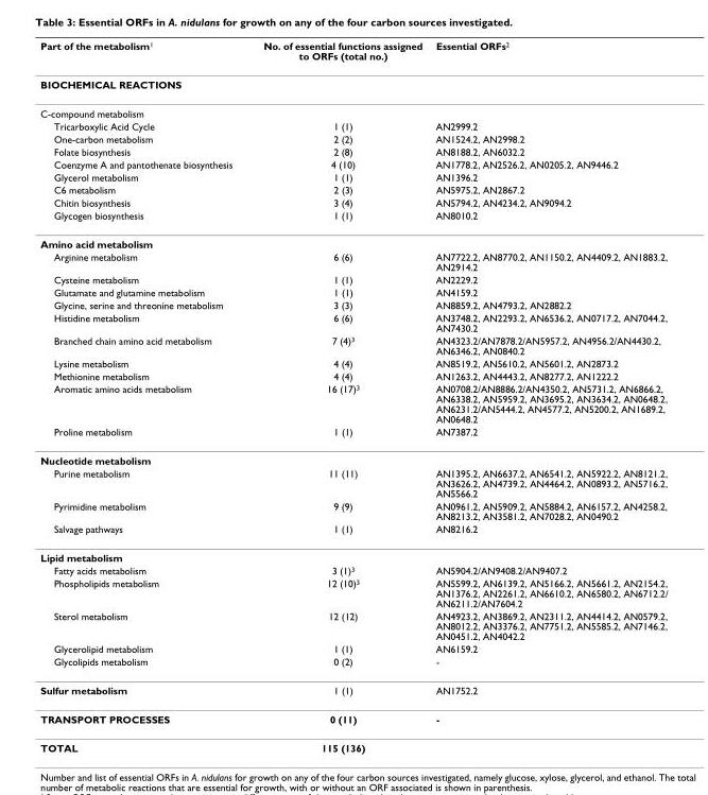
<table><thead><tr><td>Part of the metabolism<sup>1</sup></td><td>No. of essential functions assigned to ORFs (total no.)</td><td>Essential ORFs<sup>2</sup></td></tr></thead><tbody><tr><td colspan="3">BIOCHEMICAL REACTIONS</td></tr><tr><td colspan="3">C-compound metabolism</td></tr><tr><td>Tricarboxylic Acid Cycle</td><td>1 (1)</td><td>AN2999.2</td></tr><tr><td>One-carbon metabolism</td><td>2 (2)</td><td>AN1524.2, AN2998.2</td></tr><tr><td>Folate biosynthesis</td><td>2 (8)</td><td>AN8188.2, AN6032.2</td></tr><tr><td>Coenzyme A and pantothenate biosynthesis</td><td>4 (10)</td><td>AN1778.2, AN2526.2, AN0205.2, AN9446.2</td></tr><tr><td>Glycerol metabolism</td><td>1 (1)</td><td>AN1396.2</td></tr><tr><td>C6 metabolism</td><td>2 (3)</td><td>AN5975.2, AN2867.2</td></tr><tr><td>Chitin biosynthesis</td><td>3 (4)</td><td>AN5794.2, AN4234.2, AN9094.2</td></tr><tr><td>Glycogen biosynthesis</td><td>1 (1)</td><td>AN8010.2</td></tr><tr><td colspan="3">Amino acid metabolism</td></tr><tr><td>Arginine metabolism</td><td>6 (6)</td><td>AN7722.2, AN8770.2, AN1150.2, AN4409.2, AN1883.2, AN2914.2</td></tr><tr><td>Cysteine metabolism</td><td>1 (1)</td><td>AN2229.2</td></tr><tr><td>Glutamate and glutamine metabolism</td><td>1 (1)</td><td>AN4159.2</td></tr><tr><td>Glycine, serine and threonine metabolism</td><td>3 (3)</td><td>AN8859.2, AN4793.2, AN2882.2</td></tr><tr><td>Histidine metabolism</td><td>6 (6)</td><td>AN3748.2, AN2293.2, AN6536.2, AN0717.2, AN7044.2, AN7430.2</td></tr><tr><td>Branched chain amino acid metabolism</td><td>7 (4)<sup>3</sup></td><td>AN4323.2/AN7878.2/AN5957.2, AN4956.2/AN4430.2, AN6346.2, AN0840.2</td></tr><tr><td>Lysine metabolism</td><td>4 (4)</td><td>AN8519.2, AN5610.2, AN5601.2, AN2873.2</td></tr><tr><td>Methionine metabolism</td><td>4 (4)</td><td>AN1263.2, AN4443.2, AN8277.2, AN1222.2</td></tr><tr><td>Aromatic amino acids metabolism</td><td>16 (17)<sup>3</sup></td><td>AN0708.2/AN8886.2/AN4350.2, AN5731.2, AN6866.2, AN6338.2, AN5959.2, AN3695.2, AN3634.2, AN0648.2, AN6231.2/AN5444.2, AN4577.2, AN5200.2, AN1689.2, AN0648.2</td></tr><tr><td>Proline metabolism</td><td>1 (1)</td><td>AN7387.2</td></tr><tr><td colspan="3">Nucleotide metabolism</td></tr><tr><td>Purine metabolism</td><td>11 (11)</td><td>AN1395.2, AN6637.2, AN6541.2, AN5922.2, AN8121.2, AN3626.2, AN4739.2, AN4464.2, AN0893.2, AN5716.2, AN5566.2</td></tr><tr><td>Pyrimidine metabolism</td><td>9 (9)</td><td>AN0961.2, AN5909.2, AN5884.2, AN6157.2, AN4258.2, AN8213.2, AN3581.2, AN7028.2, AN0490.2</td></tr><tr><td>Salvage pathways</td><td>1 (1)</td><td>AN8216.2</td></tr><tr><td colspan="3">Lipid metabolism</td></tr><tr><td>Fatty acids metabolism</td><td>3 (1)<sup>3</sup></td><td>AN5904.2/AN9408.2/AN9407.2</td></tr><tr><td>Phospholipids metabolism</td><td>12 (10)<sup>3</sup></td><td>AN5599.2, AN6139.2, AN5166.2, AN5661.2, AN2154.2, AN1376.2, AN2261.2, AN6610.2, AN6580.2, AN6712.2/ AN6211.2/AN7604.2</td></tr><tr><td>Sterol metabolism</td><td>12 (12)</td><td>AN4923.2, AN3869.2, AN2311.2, AN4414.2, AN0579.2, AN8012.2, AN3376.2, AN7751.2, AN5585.2, AN7146.2, AN0451.2, AN4042.2</td></tr><tr><td>Glycerolipid metabolism</td><td>1 (1)</td><td>AN6159.2</td></tr><tr><td>Glycolipids metabolism</td><td>0 (2)</td><td>-</td></tr><tr><td>Sulfur metabolism</td><td>1 (1)</td><td>AN1752.2</td></tr><tr><td>TRANSPORT PROCESSES</td><td>0 (11)</td><td>-</td></tr><tr><td>TOTAL</td><td>115 (136)</td><td></td></tr></tbody></table>